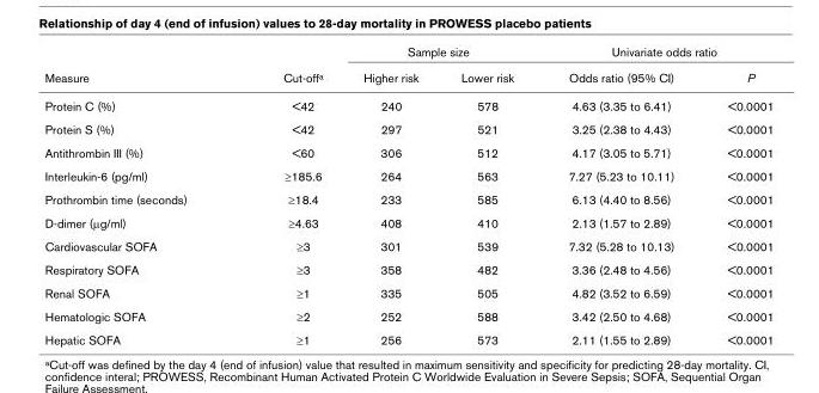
<table><thead><tr><td rowspan="2">Measure</td><td rowspan="2">Cut-off<sup>a</sup></td><td colspan="2">Sample size</td><td colspan="2">Univariate odds ratio</td></tr><tr><td>Higher risk</td><td>Lower risk</td><td>Odds ratio (95% CI)</td><td>P</td></tr></thead><tbody><tr><td>Protein C (%)</td><td>&lt;42</td><td>240</td><td>578</td><td>4.63 (3.35 to 6.41)</td><td>&lt;0.0001</td></tr><tr><td>Protein S (%)</td><td>&lt;42</td><td>297</td><td>521</td><td>3.25 (2.38 to 4.43)</td><td>&lt;0.0001</td></tr><tr><td>Antithrombin III (%)</td><td>&lt;60</td><td>306</td><td>512</td><td>4.17 (3.05 to 5.71)</td><td>&lt;0.0001</td></tr><tr><td>Interleukin-6 (pg/ml)</td><td>≥185.6</td><td>264</td><td>563</td><td>7.27 (5.23 to 10.11)</td><td>&lt;0.0001</td></tr><tr><td>Prothrombin time (seconds)</td><td>≥18.4</td><td>233</td><td>585</td><td>6.13 (4.40 to 8.56)</td><td>&lt;0.0001</td></tr><tr><td>D-dimer (μg/ml)</td><td>≥4.63</td><td>408</td><td>410</td><td>2.13 (1.57 to 2.89)</td><td>&lt;0.0001</td></tr><tr><td>Cardiovascular SOFA</td><td>≥3</td><td>301</td><td>539</td><td>7.32 (5.28 to 10.13)</td><td>&lt;0.0001</td></tr><tr><td>Respiratory SOFA</td><td>≥3</td><td>358</td><td>482</td><td>3.36 (2.48 to 4.56)</td><td>&lt;0.0001</td></tr><tr><td>Renal SOFA</td><td>≥1</td><td>335</td><td>505</td><td>4.82 (3.52 to 6.59)</td><td>&lt;0.0001</td></tr><tr><td>Hematologic SOFA</td><td>≥2</td><td>252</td><td>588</td><td>3.42 (2.50 to 4.68)</td><td>&lt;0.0001</td></tr><tr><td>Hepatic SOFA</td><td>≥1</td><td>256</td><td>573</td><td>2.11 (1.55 to 2.89)</td><td>&lt;0.0001</td></tr></tbody></table>